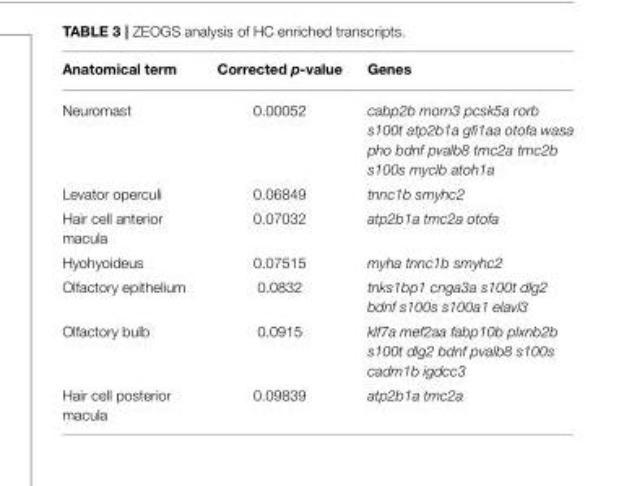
<table><thead><tr><td>Anatomical term</td><td>Corrected p-value</td><td>Genes</td></tr></thead><tbody><tr><td>Neuromast</td><td>0.00052</td><td>cabp2b morn3 pcsk5a rorb s100t atp2b1a gfi1aa otofa wasa pho bdnf pvalb8 tmc2a tmc2b s100s myclb atoh1a</td></tr><tr><td>Levator operculi</td><td>0.06849</td><td>tnnc1b smyhc2</td></tr><tr><td>Hair cell anterior macula</td><td>0.07032</td><td>atp2b1a tmc2a otofa</td></tr><tr><td>Hyohyoideus</td><td>0.07515</td><td>myha tnnc1b smyhc2</td></tr><tr><td>Olfactory epithelium</td><td>0.0832</td><td>tnks1bp1 cnga3a s100t dlg2 bdnf s100s s100a1 elavl3</td></tr><tr><td>Olfactory bulb</td><td>0.0915</td><td>klf7a mef2aa fabp10b plxnb2b s100t dlg2 bdnf pvalb8 s100s cadm1b igdcc3</td></tr><tr><td>Hair cell posterior macula</td><td>0.09839</td><td>atp2b1a tmc2a</td></tr></tbody></table>